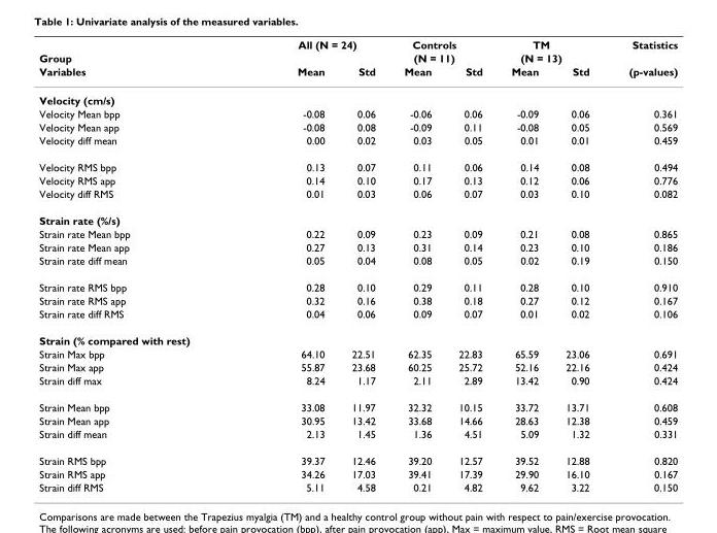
<table><thead><tr><td rowspan="3">Group Variables</td><td colspan="2">All (N = 24)</td><td rowspan="2" colspan="2">Controls (N = 11)</td><td rowspan="2" colspan="2">TM (N = 13)</td><td rowspan="3">Statistics (p-values)</td></tr><tr><td rowspan="2">Mean</td><td rowspan="2">Std</td></tr><tr><td>Mean</td><td>Std</td><td>Mean</td><td>Std</td></tr></thead><tbody><tr><td colspan="8">Velocity (cm/s)</td></tr><tr><td>Velocity Mean bpp</td><td>-0.08</td><td>0.06</td><td>-0.06</td><td>0.06</td><td>-0.09</td><td>0.06</td><td>0.361</td></tr><tr><td>Velocity Mean app</td><td>-0.08</td><td>0.08</td><td>-0.09</td><td>0.11</td><td>-0.08</td><td>0.05</td><td>0.569</td></tr><tr><td>Velocity diff mean</td><td>0.00</td><td>0.02</td><td>0.03</td><td>0.05</td><td>0.01</td><td>0.01</td><td>0.459</td></tr><tr><td>Velocity RMS bpp</td><td>0.13</td><td>0.07</td><td>0.11</td><td>0.06</td><td>0.14</td><td>0.08</td><td>0.494</td></tr><tr><td>Velocity RMS app</td><td>0.14</td><td>0.10</td><td>0.17</td><td>0.13</td><td>0.12</td><td>0.06</td><td>0.776</td></tr><tr><td>Velocity diff RMS</td><td>0.01</td><td>0.03</td><td>0.06</td><td>0.07</td><td>0.03</td><td>0.10</td><td>0.082</td></tr><tr><td colspan="8">Strain rate (%/s)</td></tr><tr><td>Strain rate Mean bpp</td><td>0.22</td><td>0.09</td><td>0.23</td><td>0.09</td><td>0.21</td><td>0.08</td><td>0.865</td></tr><tr><td>Strain rate Mean app</td><td>0.27</td><td>0.13</td><td>0.31</td><td>0.14</td><td>0.23</td><td>0.10</td><td>0.186</td></tr><tr><td>Strain rate diff mean</td><td>0.05</td><td>0.04</td><td>0.08</td><td>0.05</td><td>0.02</td><td>0.19</td><td>0.150</td></tr><tr><td>Strain rate RMS bpp</td><td>0.28</td><td>0.10</td><td>0.29</td><td>0.11</td><td>0.28</td><td>0.10</td><td>0.910</td></tr><tr><td>Strain rate RMS app</td><td>0.32</td><td>0.16</td><td>0.38</td><td>0.18</td><td>0.27</td><td>0.12</td><td>0.167</td></tr><tr><td>Strain rate diff RMS</td><td>0.04</td><td>0.06</td><td>0.09</td><td>0.07</td><td>0.01</td><td>0.02</td><td>0.106</td></tr><tr><td colspan="8">Strain (% compared with rest)</td></tr><tr><td>Strain Max bpp</td><td>64.10</td><td>22.51</td><td>62.35</td><td>22.83</td><td>65.59</td><td>23.06</td><td>0.691</td></tr><tr><td>Strain Max app</td><td>55.87</td><td>23.68</td><td>60.25</td><td>25.72</td><td>52.16</td><td>22.16</td><td>0.424</td></tr><tr><td>Strain diff max</td><td>8.24</td><td>1.17</td><td>2.11</td><td>2.89</td><td>13.42</td><td>0.90</td><td>0.424</td></tr><tr><td>Strain Mean bpp</td><td>33.08</td><td>11.97</td><td>32.32</td><td>10.15</td><td>33.72</td><td>13.71</td><td>0.608</td></tr><tr><td>Strain Mean app</td><td>30.95</td><td>13.42</td><td>33.68</td><td>14.66</td><td>28.63</td><td>12.38</td><td>0.459</td></tr><tr><td>Strain diff mean</td><td>2.13</td><td>1.45</td><td>1.36</td><td>4.51</td><td>5.09</td><td>1.32</td><td>0.331</td></tr><tr><td>Strain RMS bpp</td><td>39.37</td><td>12.46</td><td>39.20</td><td>12.57</td><td>39.52</td><td>12.88</td><td>0.820</td></tr><tr><td>Strain RMS app</td><td>34.26</td><td>17.03</td><td>39.41</td><td>17.39</td><td>29.90</td><td>16.10</td><td>0.167</td></tr><tr><td>Strain diff RMS</td><td>5.11</td><td>4.58</td><td>0.21</td><td>4.82</td><td>9.62</td><td>3.22</td><td>0.150</td></tr></tbody></table>